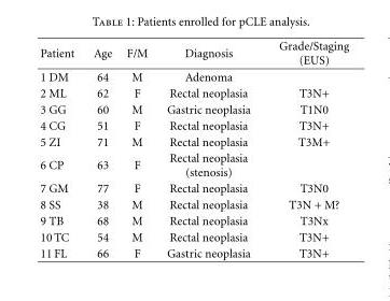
<table><thead><tr><td>Patient</td><td>Age</td><td>F/M</td><td>Diagnosis</td><td>Grade/Staging (EUS)</td></tr></thead><tbody><tr><td>1 DM</td><td>64</td><td>M</td><td>Adenoma</td><td></td></tr><tr><td>2 ML</td><td>62</td><td>F</td><td>Rectal neoplasia</td><td>T3N+</td></tr><tr><td>3 GG</td><td>60</td><td>M</td><td>Gastric neoplasia</td><td>T1N0</td></tr><tr><td>4 CG</td><td>51</td><td>F</td><td>Rectal neoplasia</td><td>T3N+</td></tr><tr><td>5 ZI</td><td>71</td><td>M</td><td>Rectal neoplasia</td><td>T3M+</td></tr><tr><td>6 CP</td><td>63</td><td>F</td><td>Rectal neoplasia (stenosis)</td><td></td></tr><tr><td>7 GM</td><td>77</td><td>F</td><td>Rectal neoplasia</td><td>T3N0</td></tr><tr><td>8 SS</td><td>38</td><td>M</td><td>Rectal neoplasia</td><td>T3N + M?</td></tr><tr><td>9 TB</td><td>68</td><td>M</td><td>Rectal neoplasia</td><td>T3Nx</td></tr><tr><td>10 TC</td><td>54</td><td>M</td><td>Rectal neoplasia</td><td>T3N+</td></tr><tr><td>11 FL</td><td>66</td><td>F</td><td>Gastric neoplasia</td><td>T3N+</td></tr></tbody></table>